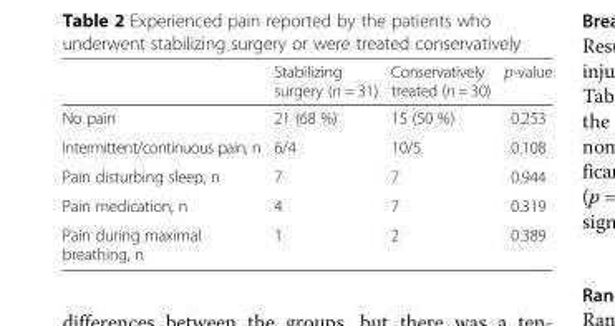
<table><thead><tr><td></td><td>Stabilizing surgery (n = 31)</td><td>Conservatively treated (n = 30)</td><td>p-value</td></tr></thead><tbody><tr><td>No pain</td><td>21 (68 %)</td><td>15 (50 %)</td><td>0.253</td></tr><tr><td>Intermittent/continuous pain, n</td><td>6/4</td><td>10/5</td><td>0.108</td></tr><tr><td>Pain disturbing sleep, n</td><td>7</td><td>7</td><td>0.944</td></tr><tr><td>Pain medication, n</td><td>4</td><td>7</td><td>0.319</td></tr><tr><td>Pain during maximal breathing, n</td><td>1</td><td>2</td><td>0.389</td></tr></tbody></table>